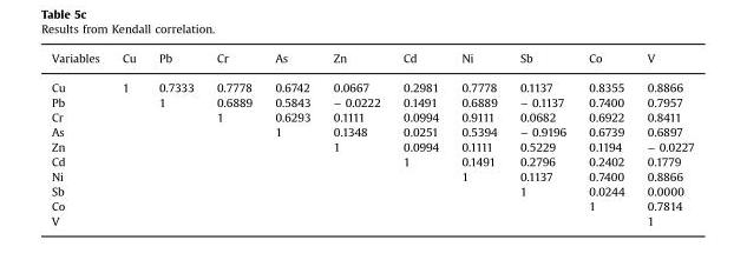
<table><thead><tr><td>Variables</td><td>Cu</td><td>Pb</td><td>Cr</td><td>As</td><td>Zn</td><td>Cd</td><td>Ni</td><td>Sb</td><td>Co</td><td>V</td></tr></thead><tbody><tr><td>Cu</td><td>1</td><td>0.7333</td><td>0.7778</td><td>0.6742</td><td>0.0667</td><td>0.2981</td><td>0.7778</td><td>0.1137</td><td>0.8355</td><td>0.8866</td></tr><tr><td>Pb</td><td></td><td>1</td><td>0.6889</td><td>0.5843</td><td>− 0.0222</td><td>0.1491</td><td>0.6889</td><td>− 0.1137</td><td>0.7400</td><td>0.7957</td></tr><tr><td>Cr</td><td></td><td></td><td>1</td><td>0.6293</td><td>0.1111</td><td>0.0994</td><td>0.9111</td><td>0.0682</td><td>0.6922</td><td>0.8411</td></tr><tr><td>As</td><td></td><td></td><td></td><td>1</td><td>0.1348</td><td>0.0251</td><td>0.5394</td><td>− 0.9196</td><td>0.6739</td><td>0.6897</td></tr><tr><td>Zn</td><td></td><td></td><td></td><td></td><td>1</td><td>0.0994</td><td>0.1111</td><td>0.5229</td><td>0.1194</td><td>− 0.0227</td></tr><tr><td>Cd</td><td></td><td></td><td></td><td></td><td></td><td>1</td><td>0.1491</td><td>0.2796</td><td>0.2402</td><td>0.1779</td></tr><tr><td>Ni</td><td></td><td></td><td></td><td></td><td></td><td></td><td>1</td><td>0.1137</td><td>0.7400</td><td>0.8866</td></tr><tr><td>Sb</td><td></td><td></td><td></td><td></td><td></td><td></td><td></td><td>1</td><td>0.0244</td><td>0.0000</td></tr><tr><td>Co</td><td></td><td></td><td></td><td></td><td></td><td></td><td></td><td></td><td>1</td><td>0.7814</td></tr><tr><td>V</td><td></td><td></td><td></td><td></td><td></td><td></td><td></td><td></td><td></td><td>1</td></tr></tbody></table>